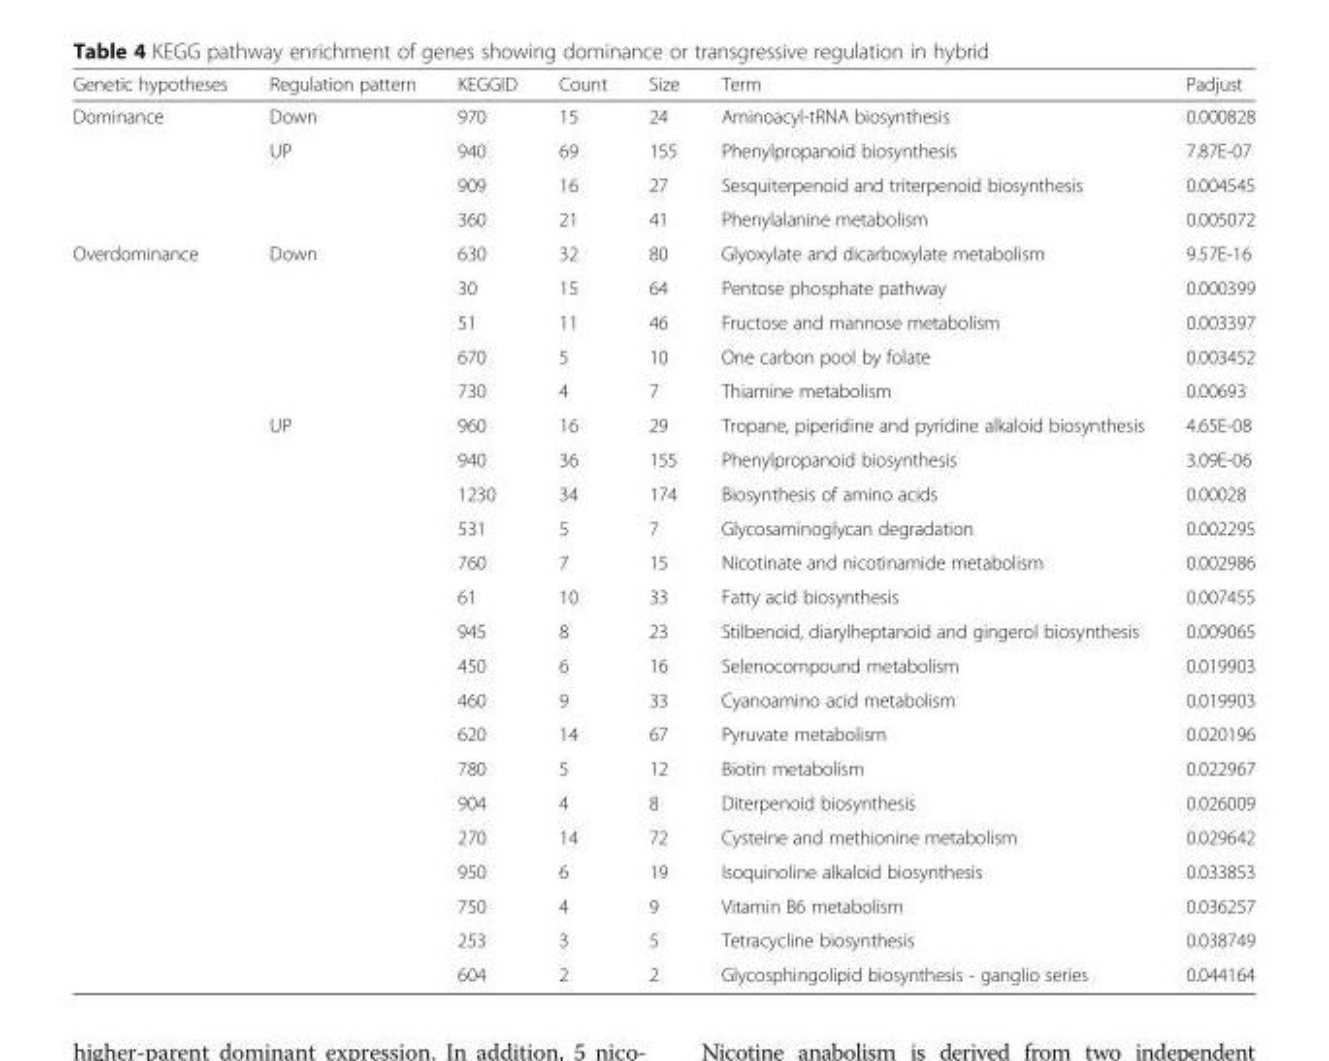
<table><thead><tr><td>Genetic hypotheses</td><td>Regulation pattern</td><td>KEGGID</td><td>Count</td><td>Size</td><td>Term</td><td>Padjust</td></tr></thead><tbody><tr><td rowspan="4">Dominance</td><td>Down</td><td>970</td><td>15</td><td>24</td><td>Aminoacyl-tRNA biosynthesis</td><td>0.000828</td></tr><tr><td>UP</td><td>940</td><td>69</td><td>155</td><td>Phenylpropanoid biosynthesis</td><td>7.87E-07</td></tr><tr><td></td><td>909</td><td>16</td><td>27</td><td>Sesquiterpenoid and triterpenoid biosynthesis</td><td>0.004545</td></tr><tr><td></td><td>360</td><td>21</td><td>41</td><td>Phenylalanine metabolism</td><td>0.005072</td></tr><tr><td rowspan="22">Overdominance</td><td>Down</td><td>630</td><td>32</td><td>80</td><td>Glyoxylate and dicarboxylate metabolism</td><td>9.57E-16</td></tr><tr><td></td><td>30</td><td>15</td><td>64</td><td>Pentose phosphate pathway</td><td>0.000399</td></tr><tr><td></td><td>51</td><td>11</td><td>46</td><td>Fructose and mannose metabolism</td><td>0.003397</td></tr><tr><td></td><td>670</td><td>5</td><td>10</td><td>One carbon pool by folate</td><td>0.003452</td></tr><tr><td></td><td>730</td><td>4</td><td>7</td><td>Thiamine metabolism</td><td>0.00693</td></tr><tr><td>UP</td><td>960</td><td>16</td><td>29</td><td>Tropane, piperidine and pyridine alkaloid biosynthesis</td><td>4.65E-08</td></tr><tr><td></td><td>940</td><td>36</td><td>155</td><td>Phenylpropanoid biosynthesis</td><td>3.09E-06</td></tr><tr><td></td><td>1230</td><td>34</td><td>174</td><td>Biosynthesis of amino acids</td><td>0.00028</td></tr><tr><td></td><td>531</td><td>5</td><td>7</td><td>Glycosaminoglycan degradation</td><td>0.002295</td></tr><tr><td></td><td>760</td><td>7</td><td>15</td><td>Nicotinate and nicotinamide metabolism</td><td>0.002986</td></tr><tr><td></td><td>61</td><td>10</td><td>33</td><td>Fatty acid biosynthesis</td><td>0.007455</td></tr><tr><td></td><td>945</td><td>8</td><td>23</td><td>Stilbenoid, diarylheptanoid and gingerol biosynthesis</td><td>0.009065</td></tr><tr><td></td><td>450</td><td>6</td><td>16</td><td>Selenocompound metabolism</td><td>0.019903</td></tr><tr><td></td><td>460</td><td>9</td><td>33</td><td>Cyanoamino acid metabolism</td><td>0.019903</td></tr><tr><td></td><td>620</td><td>14</td><td>67</td><td>Pyruvate metabolism</td><td>0.020196</td></tr><tr><td></td><td>780</td><td>5</td><td>12</td><td>Biotin metabolism</td><td>0.022967</td></tr><tr><td></td><td>904</td><td>4</td><td>8</td><td>Diterpenoid biosynthesis</td><td>0.026009</td></tr><tr><td></td><td>270</td><td>14</td><td>72</td><td>Cysteine and methionine metabolism</td><td>0.029642</td></tr><tr><td></td><td>950</td><td>6</td><td>19</td><td>Isoquinoline alkaloid biosynthesis</td><td>0.033853</td></tr><tr><td></td><td>750</td><td>4</td><td>9</td><td>Vitamin B6 metabolism</td><td>0.036257</td></tr><tr><td></td><td>253</td><td>3</td><td>5</td><td>Tetracycline biosynthesis</td><td>0.038749</td></tr><tr><td></td><td>604</td><td>2</td><td>2</td><td>Glycosphingolipid biosynthesis - ganglio series</td><td>0.044164</td></tr></tbody></table>